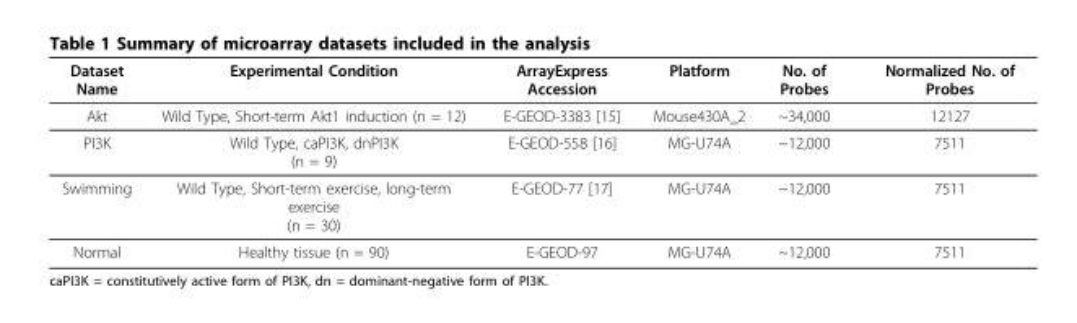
<table><thead><tr><td>Dataset Name</td><td>Experimental Condition</td><td>ArrayExpress Accession</td><td>Platform</td><td>No. of Probes</td><td>Normalized No. of Probes</td></tr></thead><tbody><tr><td>Akt</td><td>Wild Type, Short-term Akt1 induction (n = 12)</td><td>E-GEOD-3383 [15]</td><td>Mouse430A_2</td><td>~34,000</td><td>12127</td></tr><tr><td>PI3K</td><td>Wild Type, caPI3K, dnPI3K (n = 9)</td><td>E-GEOD-558 [16]</td><td>MG-U74A</td><td>~12,000</td><td>7511</td></tr><tr><td>Swimming</td><td>Wild Type, Short-term exercise, long-term exercise (n = 30)</td><td>E-GEOD-77 [17]</td><td>MG-U74A</td><td>~12,000</td><td>7511</td></tr><tr><td>Normal</td><td>Healthy tissue (n = 90)</td><td>E-GEOD-97</td><td>MG-U74A</td><td>~12,000</td><td>7511</td></tr></tbody></table>